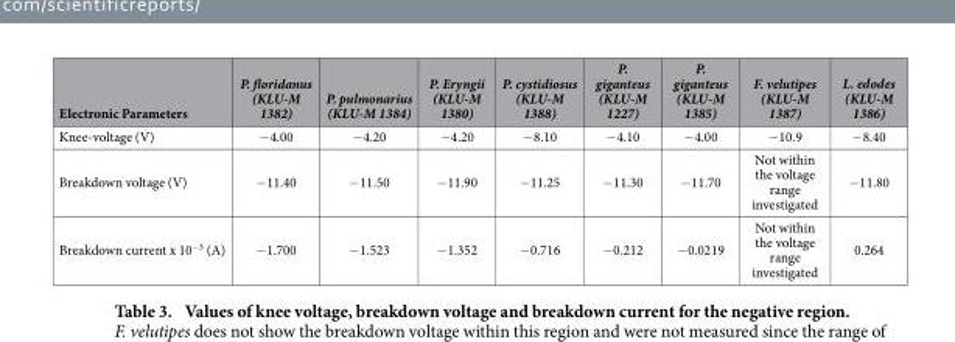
<table><thead><tr><td>Electronic Parameters</td><td>P. floridanus (KLU-M 1382)</td><td>P. pulmonarius (KLU-M 1384)</td><td>P. Eryngii (KLU-M 1380)</td><td>P. cystidiosus (KLU-M 1388)</td><td>P. giganteus (KLU-M 1227)</td><td>P. giganteus (KLU-M 1385)</td><td>F. velutipes (KLU-M 1387)</td><td>L. edodes (KLU-M 1386)</td></tr></thead><tbody><tr><td>Knee-voltage (V)</td><td>− 4.00</td><td>− 4.20</td><td>− 4.20</td><td>− 8.10</td><td>− 4.10</td><td>− 4.00</td><td>− 10.9</td><td>− 8.40</td></tr><tr><td>Breakdown voltage (V)</td><td>− 11.40</td><td>− 11.50</td><td>− 11.90</td><td>− 11.25</td><td>− 11.30</td><td>− 11.70</td><td>Not within the voltage range investigated</td><td>− 11.80</td></tr><tr><td>Breakdown current x 10<sup>−3</sup> (A)</td><td>− 1.700</td><td>− 1.523</td><td>− 1.352</td><td>− 0.716</td><td>− 0.212</td><td>− 0.0219</td><td>Not within the voltage range investigated</td><td>0.264</td></tr></tbody></table>